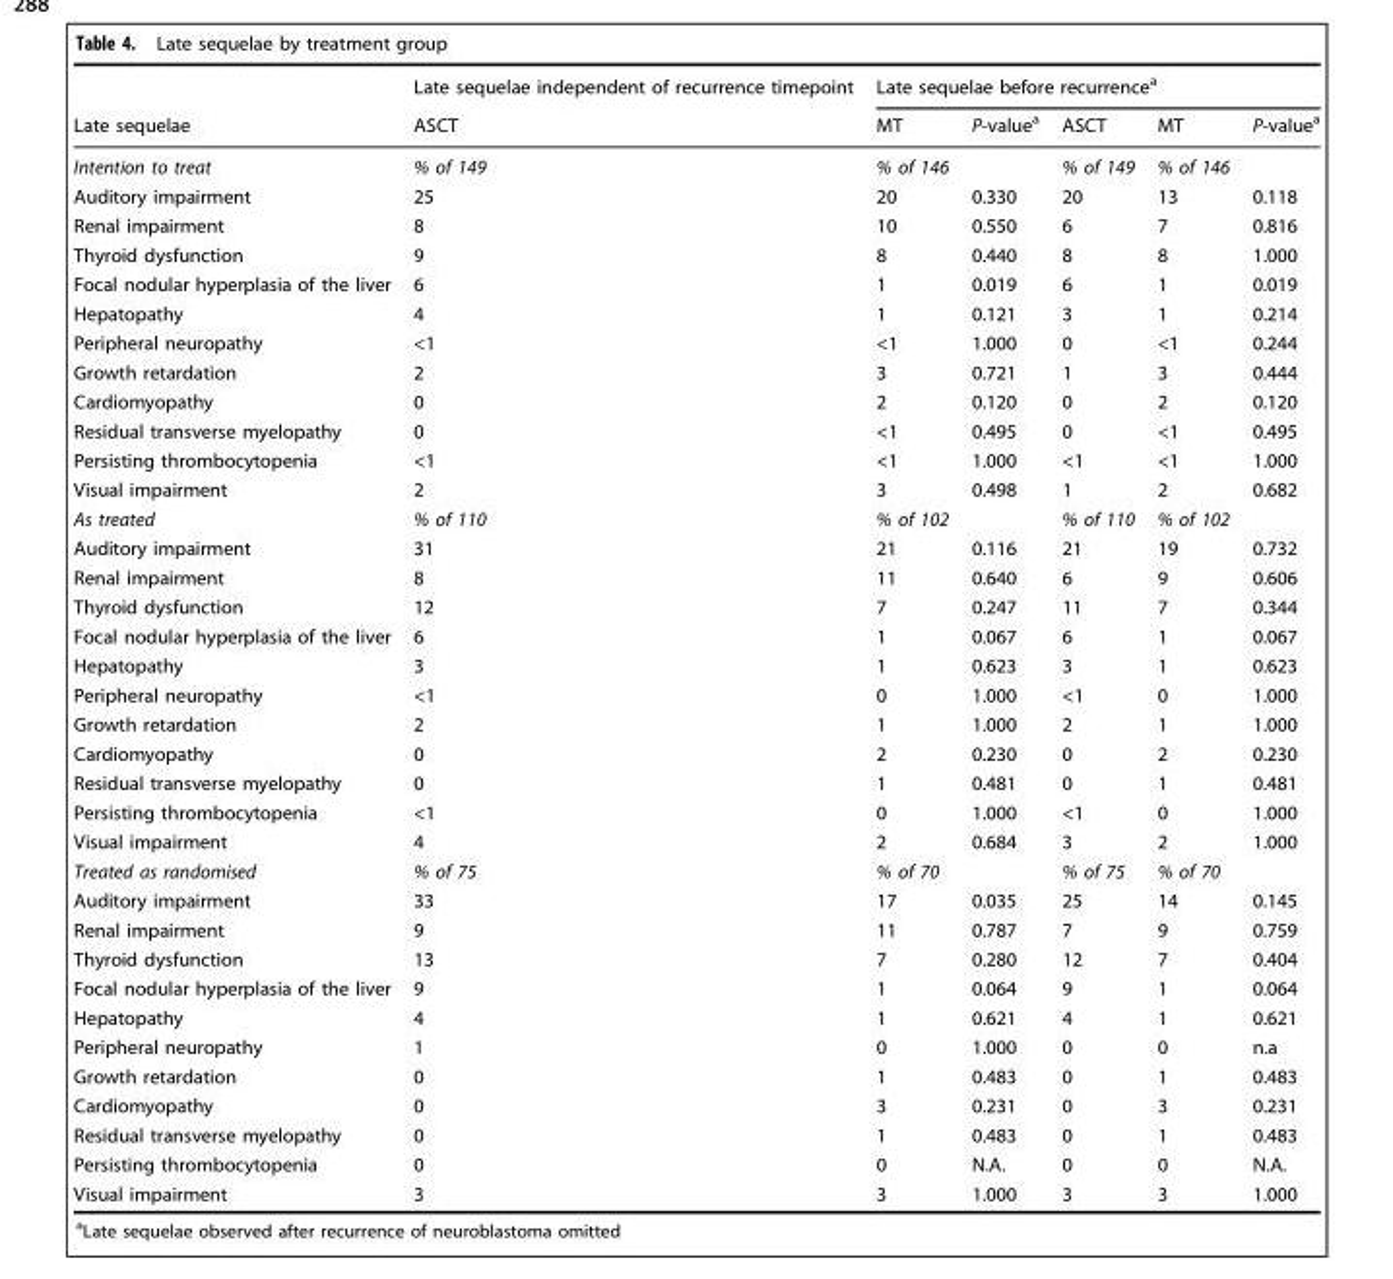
<table><thead><tr><td rowspan="2">Late sequelae</td><td rowspan="2">Late sequelae independent of recurrence timepoint ASCT</td><td colspan="5">Late sequelae before recurrence<sup>a</sup></td></tr><tr><td>MT</td><td>P-value<sup>a</sup></td><td>ASCT</td><td>MT</td><td>P-value<sup>a</sup></td></tr></thead><tbody><tr><td>Intention to treat</td><td>% of 149</td><td>% of 146</td><td></td><td>% of 149</td><td>% of 146</td><td></td></tr><tr><td>Auditory impairment</td><td>25</td><td>20</td><td>0.330</td><td>20</td><td>13</td><td>0.118</td></tr><tr><td>Renal impairment</td><td>8</td><td>10</td><td>0.550</td><td>6</td><td>7</td><td>0.816</td></tr><tr><td>Thyroid dysfunction</td><td>9</td><td>8</td><td>0.440</td><td>8</td><td>8</td><td>1.000</td></tr><tr><td>Focal nodular hyperplasia of the liver</td><td>6</td><td>1</td><td>0.019</td><td>6</td><td>1</td><td>0.019</td></tr><tr><td>Hepatopathy</td><td>4</td><td>1</td><td>0.121</td><td>3</td><td>1</td><td>0.214</td></tr><tr><td>Peripheral neuropathy</td><td>&lt;1</td><td>&lt;1</td><td>1.000</td><td>0</td><td>&lt;1</td><td>0.244</td></tr><tr><td>Growth retardation</td><td>2</td><td>3</td><td>0.721</td><td>1</td><td>3</td><td>0.444</td></tr><tr><td>Cardiomyopathy</td><td>0</td><td>2</td><td>0.120</td><td>0</td><td>2</td><td>0.120</td></tr><tr><td>Residual transverse myelopathy</td><td>0</td><td>&lt;1</td><td>0.495</td><td>0</td><td>&lt;1</td><td>0.495</td></tr><tr><td>Persisting thrombocytopenia</td><td>&lt;1</td><td>&lt;1</td><td>1.000</td><td>&lt;1</td><td>&lt;1</td><td>1.000</td></tr><tr><td>Visual impairment</td><td>2</td><td>3</td><td>0.498</td><td>1</td><td>2</td><td>0.682</td></tr><tr><td>As treated</td><td>% of 110</td><td>% of 102</td><td></td><td>% of 110</td><td>% of 102</td><td></td></tr><tr><td>Auditory impairment</td><td>31</td><td>21</td><td>0.116</td><td>21</td><td>19</td><td>0.732</td></tr><tr><td>Renal impairment</td><td>8</td><td>11</td><td>0.640</td><td>6</td><td>9</td><td>0.606</td></tr><tr><td>Thyroid dysfunction</td><td>12</td><td>7</td><td>0.247</td><td>11</td><td>7</td><td>0.344</td></tr><tr><td>Focal nodular hyperplasia of the liver</td><td>6</td><td>1</td><td>0.067</td><td>6</td><td>1</td><td>0.067</td></tr><tr><td>Hepatopathy</td><td>3</td><td>1</td><td>0.623</td><td>3</td><td>1</td><td>0.623</td></tr><tr><td>Peripheral neuropathy</td><td>&lt;1</td><td>0</td><td>1.000</td><td>&lt;1</td><td>0</td><td>1.000</td></tr><tr><td>Growth retardation</td><td>2</td><td>1</td><td>1.000</td><td>2</td><td>1</td><td>1.000</td></tr><tr><td>Cardiomyopathy</td><td>0</td><td>2</td><td>0.230</td><td>0</td><td>2</td><td>0.230</td></tr><tr><td>Residual transverse myelopathy</td><td>0</td><td>1</td><td>0.481</td><td>0</td><td>1</td><td>0.481</td></tr><tr><td>Persisting thrombocytopenia</td><td>&lt;1</td><td>0</td><td>1.000</td><td>&lt;1</td><td>0</td><td>1.000</td></tr><tr><td>Visual impairment</td><td>4</td><td>2</td><td>0.684</td><td>3</td><td>2</td><td>1.000</td></tr><tr><td>Treated as randomised</td><td>% of 75</td><td>% of 70</td><td></td><td>% of 75</td><td>% of 70</td><td></td></tr><tr><td>Auditory impairment</td><td>33</td><td>17</td><td>0.035</td><td>25</td><td>14</td><td>0.145</td></tr><tr><td>Renal impairment</td><td>9</td><td>11</td><td>0.787</td><td>7</td><td>9</td><td>0.759</td></tr><tr><td>Thyroid dysfunction</td><td>13</td><td>7</td><td>0.280</td><td>12</td><td>7</td><td>0.404</td></tr><tr><td>Focal nodular hyperplasia of the liver</td><td>9</td><td>1</td><td>0.064</td><td>9</td><td>1</td><td>0.064</td></tr><tr><td>Hepatopathy</td><td>4</td><td>1</td><td>0.621</td><td>4</td><td>1</td><td>0.621</td></tr><tr><td>Peripheral neuropathy</td><td>1</td><td>0</td><td>1.000</td><td>0</td><td>0</td><td>n.a</td></tr><tr><td>Growth retardation</td><td>0</td><td>1</td><td>0.483</td><td>0</td><td>1</td><td>0.483</td></tr><tr><td>Cardiomyopathy</td><td>0</td><td>3</td><td>0.231</td><td>0</td><td>3</td><td>0.231</td></tr><tr><td>Residual transverse myelopathy</td><td>0</td><td>1</td><td>0.483</td><td>0</td><td>1</td><td>0.483</td></tr><tr><td>Persisting thrombocytopenia</td><td>0</td><td>0</td><td>N.A.</td><td>0</td><td>0</td><td>N.A.</td></tr><tr><td>Visual impairment</td><td>3</td><td>3</td><td>1.000</td><td>3</td><td>3</td><td>1.000</td></tr></tbody></table>